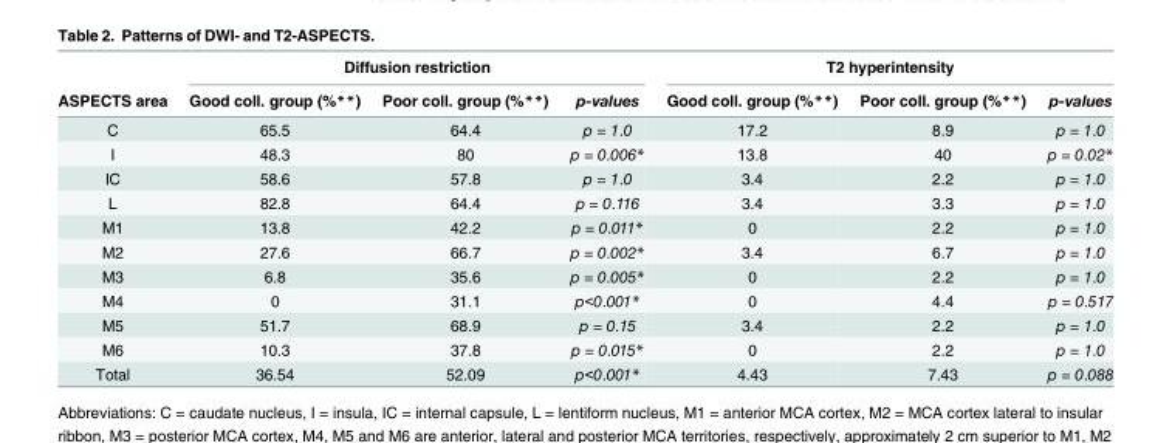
<table><thead><tr><td rowspan="2">ASPECTS area</td><td colspan="3">Diffusion restriction</td><td colspan="3">T2 hyperintensity</td></tr><tr><td>Good coll. group (%**)</td><td>Poor coll. group (%**)</td><td>p-values</td><td>Good coll. group (%**)</td><td>Poor coll. group (%**)</td><td>p-values</td></tr></thead><tbody><tr><td>C</td><td>65.5</td><td>64.4</td><td>p = 1.0</td><td>17.2</td><td>8.9</td><td>p = 1.0</td></tr><tr><td>I</td><td>48.3</td><td>80</td><td>p = 0.006*</td><td>13.8</td><td>40</td><td>p = 0.02*</td></tr><tr><td>IC</td><td>58.6</td><td>57.8</td><td>p = 1.0</td><td>3.4</td><td>2.2</td><td>p = 1.0</td></tr><tr><td>L</td><td>82.8</td><td>64.4</td><td>p = 0.116</td><td>3.4</td><td>3.3</td><td>p = 1.0</td></tr><tr><td>M1</td><td>13.8</td><td>42.2</td><td>p = 0.011*</td><td>0</td><td>2.2</td><td>p = 1.0</td></tr><tr><td>M2</td><td>27.6</td><td>66.7</td><td>p = 0.002*</td><td>3.4</td><td>6.7</td><td>p = 1.0</td></tr><tr><td>M3</td><td>6.8</td><td>35.6</td><td>p = 0.005*</td><td>0</td><td>2.2</td><td>p = 1.0</td></tr><tr><td>M4</td><td>0</td><td>31.1</td><td>p&lt;0.001*</td><td>0</td><td>4.4</td><td>p = 0.517</td></tr><tr><td>M5</td><td>51.7</td><td>68.9</td><td>p = 0.15</td><td>3.4</td><td>2.2</td><td>p = 1.0</td></tr><tr><td>M6</td><td>10.3</td><td>37.8</td><td>p = 0.015*</td><td>0</td><td>2.2</td><td>p = 1.0</td></tr><tr><td>Total</td><td>36.54</td><td>52.09</td><td>p&lt;0.001*</td><td>4.43</td><td>7.43</td><td>p = 0.088</td></tr></tbody></table>